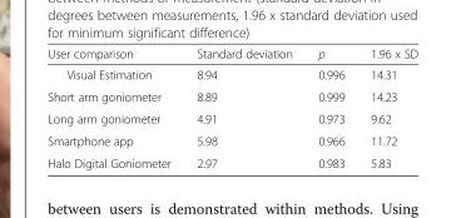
<table><thead><tr><td>User comparison</td><td>Standard deviation</td><td>p</td><td>1.96 x SD</td></tr></thead><tbody><tr><td>Visual Estimation</td><td>8.94</td><td>0.996</td><td>14.31</td></tr><tr><td>Short arm goniometer</td><td>8.89</td><td>0.999</td><td>14.23</td></tr><tr><td>Long arm goniometer</td><td>4.91</td><td>0.973</td><td>9.62</td></tr><tr><td>Smartphone app</td><td>5.98</td><td>0.966</td><td>11.72</td></tr><tr><td>Halo Digital Goniometer</td><td>2.97</td><td>0.983</td><td>5.83</td></tr></tbody></table>